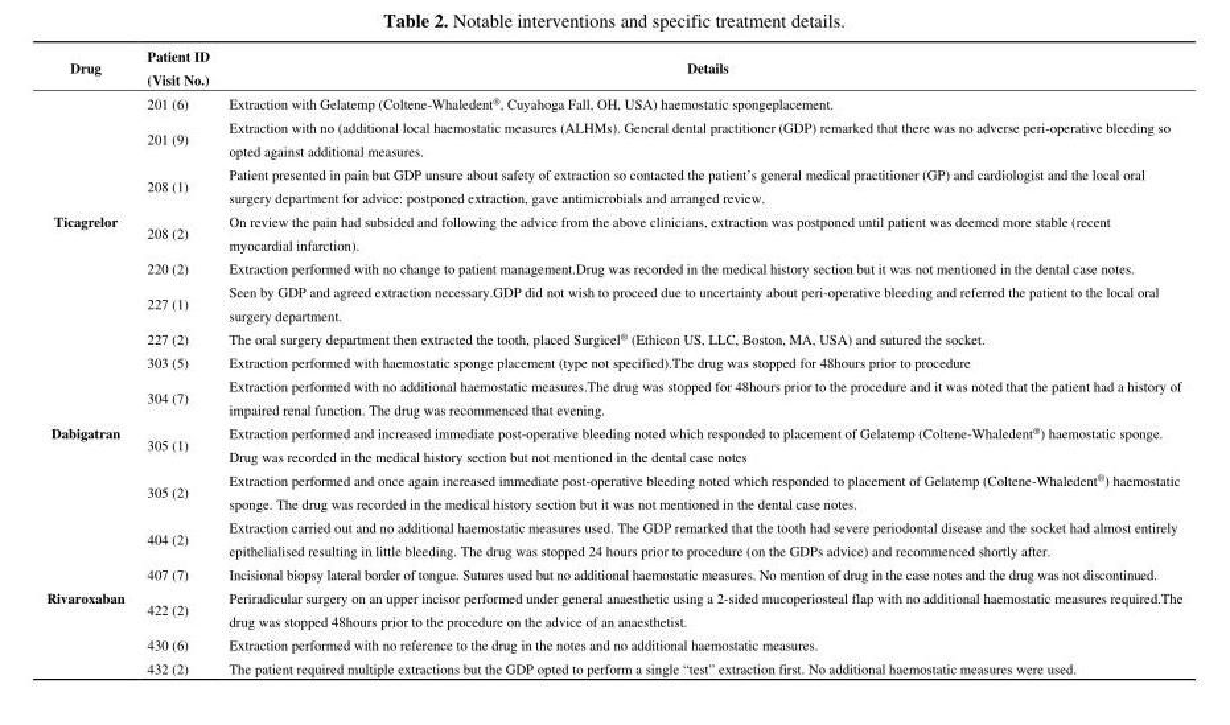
<table><thead><tr><td>Drug</td><td>Patient ID (Visit No.)</td><td>Details</td></tr></thead><tbody><tr><td rowspan="7">Ticagrelor</td><td>201 (6)</td><td>Extraction with Gelatemp (Coltene-Whaledent<sup>®</sup>, Cuyahoga Fall, OH, USA) haemostatic spongeplacement.</td></tr><tr><td>201 (9)</td><td>Extraction with no (additional local haemostatic measures (ALHMs). General dental practitioner (GDP) remarked that there was no adverse peri-operative bleeding so opted against additional measures.</td></tr><tr><td>208 (1)</td><td>Patient presented in pain but GDP unsure about safety of extraction so contacted the patient’s general medical practitioner (GP) and cardiologist and the local oral surgery department for advice: postponed extraction, gave antimicrobials and arranged review.</td></tr><tr><td>208 (2)</td><td>On review the pain had subsided and following the advice from the above clinicians, extraction was postponed until patient was deemed more stable (recent myocardial infarction).</td></tr><tr><td>220 (2)</td><td>Extraction performed with no change to patient management.Drug was recorded in the medical history section but it was not mentioned in the dental case notes.</td></tr><tr><td>227 (1)</td><td>Seen by GDP and agreed extraction necessary.GDP did not wish to proceed due to uncertainty about peri-operative bleeding and referred the patient to the local oral surgery department.</td></tr><tr><td>227 (2)</td><td>The oral surgery department then extracted the tooth, placed Surgicel<sup>®</sup> (Ethicon US, LLC, Boston, MA, USA) and sutured the socket.</td></tr><tr><td rowspan="4">Dabigatran</td><td>303 (5)</td><td>Extraction performed with haemostatic sponge placement (type not specified).The drug was stopped for 48hours prior to procedure</td></tr><tr><td>304 (7)</td><td>Extraction performed with no additional haemostatic measures.The drug was stopped for 48hours prior to the procedure and it was noted that the patient had a history of impaired renal function. The drug was recommenced that evening.</td></tr><tr><td>305 (1)</td><td>Extraction performed and increased immediate post-operative bleeding noted which responded to placement of Gelatemp (Coltene-Whaledent<sup>®</sup>) haemostatic sponge. Drug was recorded in the medical history section but not mentioned in the dental case notes</td></tr><tr><td>305 (2)</td><td>Extraction performed and once again increased immediate post-operative bleeding noted which responded to placement of Gelatemp (Coltene-Whaledent<sup>®</sup>) haemostatic sponge. The drug was recorded in the medical history section but it was not mentioned in the dental case notes.</td></tr><tr><td rowspan="5">Rivaroxaban</td><td>404 (2)</td><td>Extraction carried out and no additional haemostatic measures used. The GDP remarked that the tooth had severe periodontal disease and the socket had almost entirely epithelialised resulting in little bleeding. The drug was stopped 24 hours prior to procedure (on the GDPs advice) and recommenced shortly after.</td></tr><tr><td>407 (7)</td><td>Incisional biopsy lateral border of tongue. Sutures used but no additional haemostatic measures. No mention of drug in the case notes and the drug was not discontinued.</td></tr><tr><td>422 (2)</td><td>Periradicular surgery on an upper incisor performed under general anaesthetic using a 2-sided mucoperiosteal flap with no additional haemostatic measures required.The drug was stopped 48hours prior to the procedure on the advice of an anaesthetist.</td></tr><tr><td>430 (6)</td><td>Extraction performed with no reference to the drug in the notes and no additional haemostatic measures.</td></tr><tr><td>432 (2)</td><td>The patient required multiple extractions but the GDP opted to perform a single “test” extraction first. No additional haemostatic measures were used.</td></tr></tbody></table>